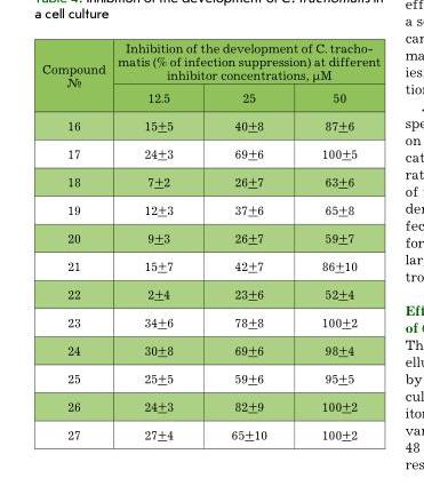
<table><thead><tr><td rowspan="2">compound №</td><td colspan="3">Inhibition of the development of c. tracho- matis (% of infection suppression) at different inhibitor concentrations, µM</td></tr><tr><td>12.5</td><td>25</td><td>50</td></tr></thead><tbody><tr><td>16</td><td>15+5</td><td>40+8</td><td>87+6</td></tr><tr><td>17</td><td>24+3</td><td>69+6</td><td>100+5</td></tr><tr><td>18</td><td>7+2</td><td>26+7</td><td>63+6</td></tr><tr><td>19</td><td>12+3</td><td>37+6</td><td>65+8</td></tr><tr><td>20</td><td>9+3</td><td>26+7</td><td>59+7</td></tr><tr><td>21</td><td>15+7</td><td>42+7</td><td>86+10</td></tr><tr><td>22</td><td>2+4</td><td>23+6</td><td>52+4</td></tr><tr><td>23</td><td>34+6</td><td>78+8</td><td>100+2</td></tr><tr><td>24</td><td>30+8</td><td>69+6</td><td>98+4</td></tr><tr><td>25</td><td>25+5</td><td>59+6</td><td>95+5</td></tr><tr><td>26</td><td>24+3</td><td>82+9</td><td>100+2</td></tr><tr><td>27</td><td>27+4</td><td>65+10</td><td>100+2</td></tr></tbody></table>